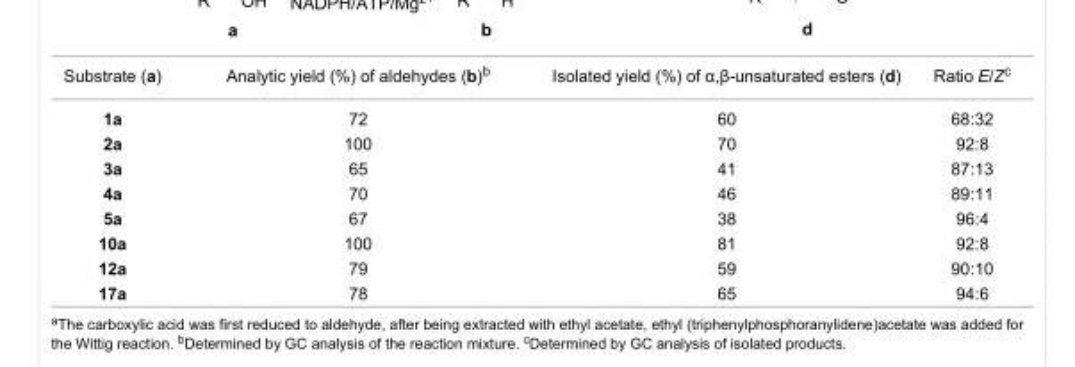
<table><tbody><tr><td>Substrate (a)</td><td>Analytic yield (%) of aldehydes (b)<sup>b</sup></td><td>Isolated yield (%) of α,β-unsaturated esters (d)</td><td>Ratio E/Z<sup>c</sup></td></tr><tr><td>1a</td><td>72</td><td>60</td><td>68:32</td></tr><tr><td>2a</td><td>100</td><td>70</td><td>92:8</td></tr><tr><td>3a</td><td>65</td><td>41</td><td>87:13</td></tr><tr><td>4a</td><td>70</td><td>46</td><td>89:11</td></tr><tr><td>5a</td><td>67</td><td>38</td><td>96:4</td></tr><tr><td>10a</td><td>100</td><td>81</td><td>92:8</td></tr><tr><td>12a</td><td>79</td><td>59</td><td>90:10</td></tr><tr><td>17a</td><td>78</td><td>65</td><td>94:6</td></tr></tbody></table>